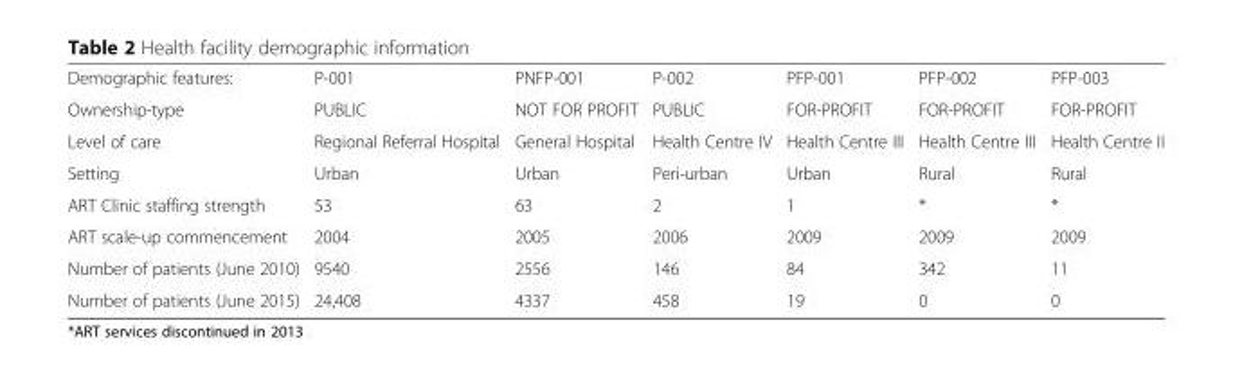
<table><tbody><tr><td>Demographic features:</td><td>P-001</td><td>PNFP-001</td><td>P-002</td><td>PFP-001</td><td>PFP-002</td><td>PFP-003</td></tr><tr><td>Ownership-type</td><td>PUBLIC</td><td>NOT FOR PROFIT</td><td>PUBLIC</td><td>FOR-PROFIT</td><td>FOR-PROFIT</td><td>FOR-PROFIT</td></tr><tr><td>Level of care</td><td>Regional Referral Hospital</td><td>General Hospital</td><td>Health Centre IV</td><td>Health Centre III</td><td>Health Centre III</td><td>Health Centre II</td></tr><tr><td>Setting</td><td>Urban</td><td>Urban</td><td>Peri-urban</td><td>Urban</td><td>Rural</td><td>Rural</td></tr><tr><td>ART Clinic staffing strength</td><td>53</td><td>63</td><td>2</td><td>1</td><td>*</td><td>*</td></tr><tr><td>ART scale-up commencement</td><td>2004</td><td>2005</td><td>2006</td><td>2009</td><td>2009</td><td>2009</td></tr><tr><td>Number of patients (June 2010)</td><td>9540</td><td>2556</td><td>146</td><td>84</td><td>342</td><td>11</td></tr><tr><td>Number of patients (June 2015)</td><td>24,408</td><td>4337</td><td>458</td><td>19</td><td>0</td><td>0</td></tr></tbody></table>